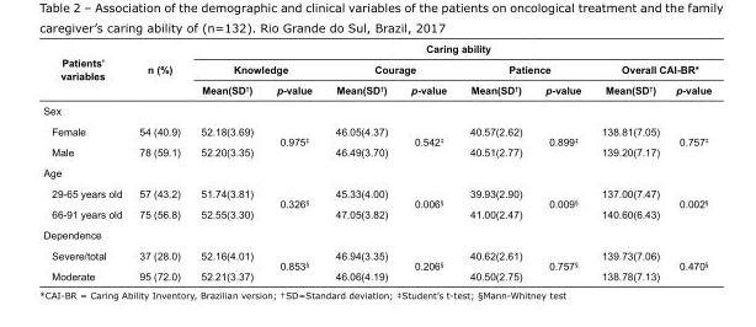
<table><tbody><tr><td rowspan="3">Patients’ variables</td><td rowspan="3">n (%)</td><td colspan="8">Caring ability</td></tr><tr><td colspan="2">Knowledge</td><td colspan="2">Courage</td><td colspan="2">Patience</td><td colspan="2">Overall CAI-BR*</td></tr><tr><td>Mean(SD<sup>†</sup>)</td><td>p-value</td><td>Mean(SD<sup>†</sup>)</td><td>p-value</td><td>Mean(SD<sup>†</sup>)</td><td>p-value</td><td>Mean(SD<sup>†</sup>)</td><td>p-value</td></tr><tr><td colspan="10">Sex</td></tr><tr><td>Female</td><td>54 (40.9)</td><td>52.18(3.69)</td><td rowspan="2">0.975<sup>‡</sup></td><td>46.05(4.37)</td><td rowspan="2">0.542<sup>‡</sup></td><td>40.57(2.62)</td><td rowspan="2">0.899<sup>‡</sup></td><td>138.81(7.05)</td><td rowspan="2">0.757<sup>‡</sup></td></tr><tr><td>Male</td><td>78 (59.1)</td><td>52.20(3.35)</td><td>46.49(3.70)</td><td>40.51(2.77)</td><td>139.20(7.17)</td></tr><tr><td colspan="10">Age</td></tr><tr><td>29-65 years old</td><td>57 (43.2)</td><td>51.74(3.81)</td><td rowspan="2">0.326<sup>§</sup></td><td>45.33(4.00)</td><td rowspan="2">0.006<sup>§</sup></td><td>39.93(2.90)</td><td rowspan="2">0.009<sup>§</sup></td><td>137.00(7.47)</td><td rowspan="2">0.002<sup>§</sup></td></tr><tr><td>66-91 years old</td><td>75 (56.8)</td><td>52.55(3.30)</td><td>47.05(3.82)</td><td>41.00(2.47)</td><td>140.60(6.43)</td></tr><tr><td colspan="10">Dependence</td></tr><tr><td>Severe/total</td><td>37 (28.0)</td><td>52.16(4.01)</td><td rowspan="2">0.853<sup>§</sup></td><td>46.94(3.35)</td><td rowspan="2">0.206<sup>§</sup></td><td>40.62(2.61)</td><td rowspan="2">0.757<sup>§</sup></td><td>139.73(7.06)</td><td rowspan="2">0.470<sup>§</sup></td></tr><tr><td>Moderate</td><td>95 (72.0)</td><td>52.21(3.37)</td><td>46.06(4.19)</td><td>40.50(2.75)</td><td>138.78(7.13)</td></tr></tbody></table>